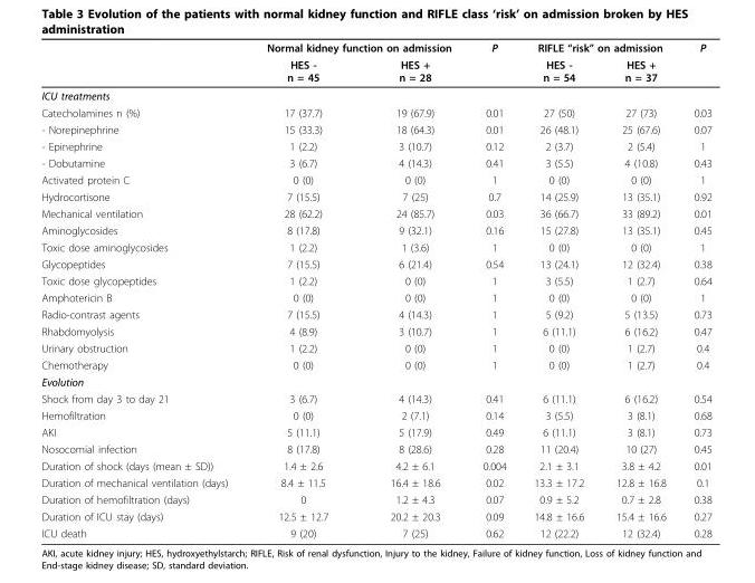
<table><thead><tr><td rowspan="2"></td><td colspan="2">Normal kidney function on admission</td><td rowspan="2">P</td><td colspan="2">RIFLE “risk” on admission</td><td rowspan="2">P</td></tr><tr><td>HES - n = 45</td><td>HES + n = 28</td><td>HES - n = 54</td><td>HES + n = 37</td></tr></thead><tbody><tr><td colspan="7">ICU treatments</td></tr><tr><td>Catecholamines n (%)</td><td>17 (37.7)</td><td>19 (67.9)</td><td>0.01</td><td>27 (50)</td><td>27 (73)</td><td>0.03</td></tr><tr><td>- Norepinephrine</td><td>15 (33.3)</td><td>18 (64.3)</td><td>0.01</td><td>26 (48.1)</td><td>25 (67.6)</td><td>0.07</td></tr><tr><td>- Epinephrine</td><td>1 (2.2)</td><td>3 (10.7)</td><td>0.12</td><td>2 (3.7)</td><td>2 (5.4)</td><td>1</td></tr><tr><td>- Dobutamine</td><td>3 (6.7)</td><td>4 (14.3)</td><td>0.41</td><td>3 (5.5)</td><td>4 (10.8)</td><td>0.43</td></tr><tr><td>Activated protein C</td><td>0 (0)</td><td>0 (0)</td><td>1</td><td>0 (0)</td><td>0 (0)</td><td>1</td></tr><tr><td>Hydrocortisone</td><td>7 (15.5)</td><td>7 (25)</td><td>0.7</td><td>14 (25.9)</td><td>13 (35.1)</td><td>0.92</td></tr><tr><td>Mechanical ventilation</td><td>28 (62.2)</td><td>24 (85.7)</td><td>0.03</td><td>36 (66.7)</td><td>33 (89.2)</td><td>0.01</td></tr><tr><td>Aminoglycosides</td><td>8 (17.8)</td><td>9 (32.1)</td><td>0.16</td><td>15 (27.8)</td><td>13 (35.1)</td><td>0.45</td></tr><tr><td>Toxic dose aminoglycosides</td><td>1 (2.2)</td><td>1 (3.6)</td><td>1</td><td>0 (0)</td><td>0 (0)</td><td>1</td></tr><tr><td>Glycopeptides</td><td>7 (15.5)</td><td>6 (21.4)</td><td>0.54</td><td>13 (24.1)</td><td>12 (32.4)</td><td>0.38</td></tr><tr><td>Toxic dose glycopeptides</td><td>1 (2.2)</td><td>0 (0)</td><td>1</td><td>3 (5.5)</td><td>1 (2.7)</td><td>0.64</td></tr><tr><td>Amphotericin B</td><td>0 (0)</td><td>0 (0)</td><td>1</td><td>0 (0)</td><td>0 (0)</td><td>1</td></tr><tr><td>Radio-contrast agents</td><td>7 (15.5)</td><td>4 (14.3)</td><td>1</td><td>5 (9.2)</td><td>5 (13.5)</td><td>0.73</td></tr><tr><td>Rhabdomyolysis</td><td>4 (8.9)</td><td>3 (10.7)</td><td>1</td><td>6 (11.1)</td><td>6 (16.2)</td><td>0.47</td></tr><tr><td>Urinary obstruction</td><td>1 (2.2)</td><td>0 (0)</td><td>1</td><td>0 (0)</td><td>1 (2.7)</td><td>0.4</td></tr><tr><td>Chemotherapy</td><td>0 (0)</td><td>0 (0)</td><td>1</td><td>0 (0)</td><td>1 (2.7)</td><td>0.4</td></tr><tr><td colspan="7">Evolution</td></tr><tr><td>Shock from day 3 to day 21</td><td>3 (6.7)</td><td>4 (14.3)</td><td>0.41</td><td>6 (11.1)</td><td>6 (16.2)</td><td>0.54</td></tr><tr><td>Hemofiltration</td><td>0 (0)</td><td>2 (7.1)</td><td>0.14</td><td>3 (5.5)</td><td>3 (8.1)</td><td>0.68</td></tr><tr><td>AKI</td><td>5 (11.1)</td><td>5 (17.9)</td><td>0.49</td><td>6 (11.1)</td><td>3 (8.1)</td><td>0.73</td></tr><tr><td>Nosocomial infection</td><td>8 (17.8)</td><td>8 (28.6)</td><td>0.28</td><td>11 (20.4)</td><td>10 (27)</td><td>0.45</td></tr><tr><td>Duration of shock (days (mean ± SD))</td><td>1.4 ± 2.6</td><td>4.2 ± 6.1</td><td>0.004</td><td>2.1 ± 3.1</td><td>3.8 ± 4.2</td><td>0.01</td></tr><tr><td>Duration of mechanical ventilation (days)</td><td>8.4 ± 11.5</td><td>16.4 ± 18.6</td><td>0.02</td><td>13.3 ± 17.2</td><td>12.8 ± 16.8</td><td>0.1</td></tr><tr><td>Duration of hemofiltration (days)</td><td>0</td><td>1.2 ± 4.3</td><td>0.07</td><td>0.9 ± 5.2</td><td>0.7 ± 2.8</td><td>0.38</td></tr><tr><td>Duration of ICU stay (days)</td><td>12.5 ± 12.7</td><td>20.2 ± 20.3</td><td>0.09</td><td>14.8 ± 16.6</td><td>15.4 ± 16.6</td><td>0.27</td></tr><tr><td>ICU death</td><td>9 (20)</td><td>7 (25)</td><td>0.62</td><td>12 (22.2)</td><td>12 (32.4)</td><td>0.28</td></tr></tbody></table>